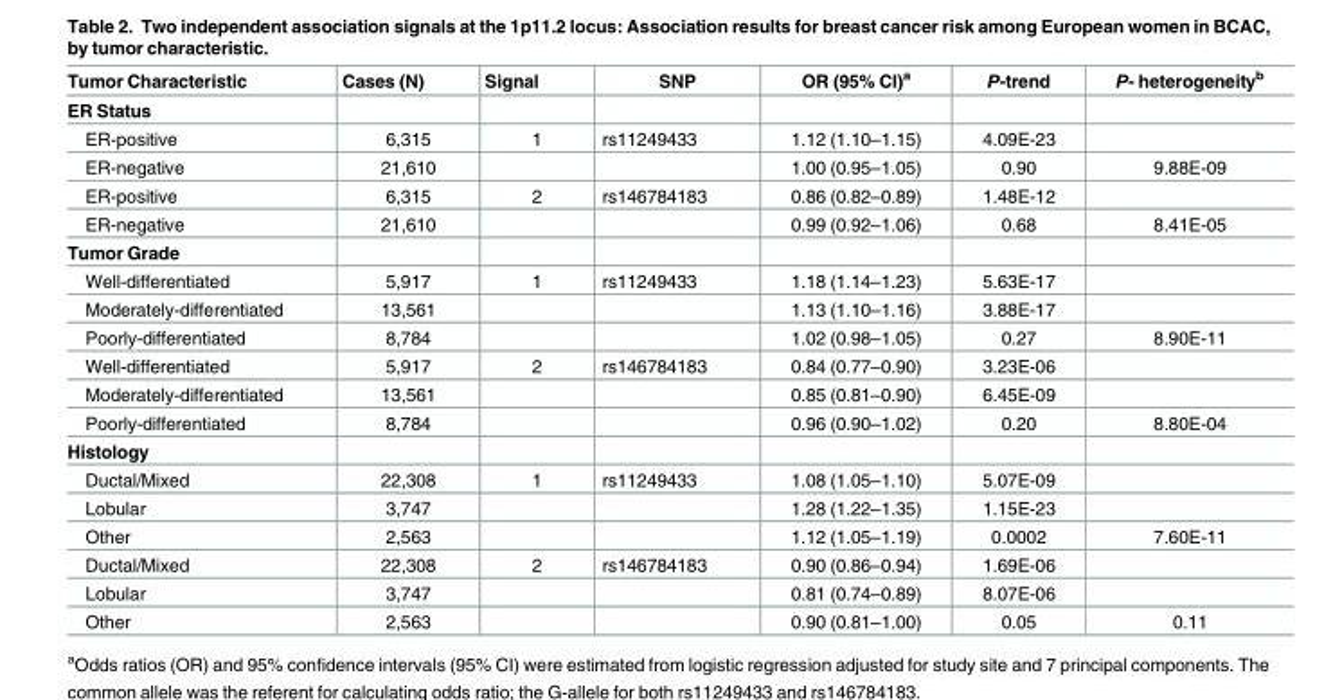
<table><thead><tr><td>Tumor Characteristic</td><td>Cases (N)</td><td>Signal</td><td>SNP</td><td>OR (95% CI)<sup>a</sup></td><td>P-trend</td><td>P- heterogeneity<sup>b</sup></td></tr></thead><tbody><tr><td colspan="7">ER Status</td></tr><tr><td>ER-positive</td><td>6,315</td><td>1</td><td>rs11249433</td><td>1.12 (1.10–1.15)</td><td>4.09E-23</td><td></td></tr><tr><td>ER-negative</td><td>21,610</td><td></td><td></td><td>1.00 (0.95–1.05)</td><td>0.90</td><td>9.88E-09</td></tr><tr><td>ER-positive</td><td>6,315</td><td>2</td><td>rs146784183</td><td>0.86 (0.82–0.89)</td><td>1.48E-12</td><td></td></tr><tr><td>ER-negative</td><td>21,610</td><td></td><td></td><td>0.99 (0.92–1.06)</td><td>0.68</td><td>8.41E-05</td></tr><tr><td colspan="7">Tumor Grade</td></tr><tr><td>Well-differentiated</td><td>5,917</td><td>1</td><td>rs11249433</td><td>1.18 (1.14–1.23)</td><td>5.63E-17</td><td></td></tr><tr><td>Moderately-differentiated</td><td>13,561</td><td></td><td></td><td>1.13 (1.10–1.16)</td><td>3.88E-17</td><td></td></tr><tr><td>Poorly-differentiated</td><td>8,784</td><td></td><td></td><td>1.02 (0.98–1.05)</td><td>0.27</td><td>8.90E-11</td></tr><tr><td>Well-differentiated</td><td>5,917</td><td>2</td><td>rs146784183</td><td>0.84 (0.77–0.90)</td><td>3.23E-06</td><td></td></tr><tr><td>Moderately-differentiated</td><td>13,561</td><td></td><td></td><td>0.85 (0.81–0.90)</td><td>6.45E-09</td><td></td></tr><tr><td>Poorly-differentiated</td><td>8,784</td><td></td><td></td><td>0.96 (0.90–1.02)</td><td>0.20</td><td>8.80E-04</td></tr><tr><td colspan="7">Histology</td></tr><tr><td>Ductal/Mixed</td><td>22,308</td><td>1</td><td>rs11249433</td><td>1.08 (1.05–1.10)</td><td>5.07E-09</td><td></td></tr><tr><td>Lobular</td><td>3,747</td><td></td><td></td><td>1.28 (1.22–1.35)</td><td>1.15E-23</td><td></td></tr><tr><td>Other</td><td>2,563</td><td></td><td></td><td>1.12 (1.05–1.19)</td><td>0.0002</td><td>7.60E-11</td></tr><tr><td>Ductal/Mixed</td><td>22,308</td><td>2</td><td>rs146784183</td><td>0.90 (0.86–0.94)</td><td>1.69E-06</td><td></td></tr><tr><td>Lobular</td><td>3,747</td><td></td><td></td><td>0.81 (0.74–0.89)</td><td>8.07E-06</td><td></td></tr><tr><td>Other</td><td>2,563</td><td></td><td></td><td>0.90 (0.81–1.00)</td><td>0.05</td><td>0.11</td></tr></tbody></table>